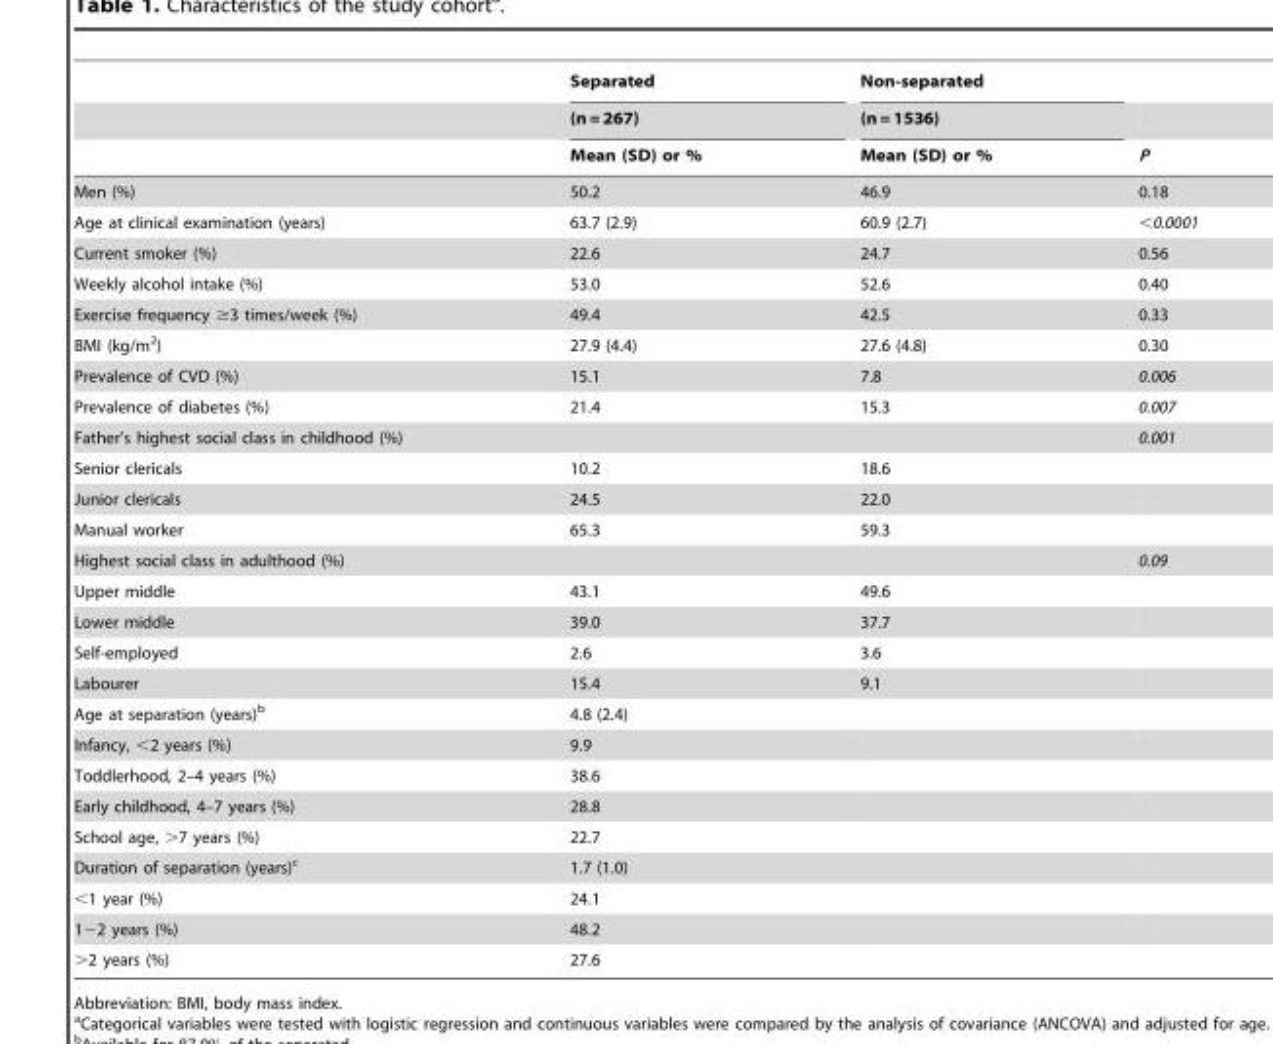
<table><thead><tr><td rowspan="3"></td><td rowspan="3">Separated (n = 267) Mean (SD) or %</td><td rowspan="3">Non-separated (n = 1536) Mean (SD) or %</td><td rowspan="3">P</td></tr><tr></tr><tr></tr></thead><tbody><tr><td>Men (%)</td><td>50.2</td><td>46.9</td><td>0.18</td></tr><tr><td>Age at clinical examination (years)</td><td>63.7 (2.9)</td><td>60.9 (2.7)</td><td>&lt;0.0001</td></tr><tr><td>Current smoker (%)</td><td>22.6</td><td>24.7</td><td>0.56</td></tr><tr><td>Weekly alcohol intake (%)</td><td>53.0</td><td>52.6</td><td>0.40</td></tr><tr><td>Exercise frequency ≥3 times/week (%)</td><td>49.4</td><td>42.5</td><td>0.33</td></tr><tr><td>BMI (kg/m<sup>2</sup>)</td><td>27.9 (4.4)</td><td>27.6 (4.8)</td><td>0.30</td></tr><tr><td>Prevalence of CVD (%)</td><td>15.1</td><td>7.8</td><td>0.006</td></tr><tr><td>Prevalence of diabetes (%)</td><td>21.4</td><td>15.3</td><td>0.007</td></tr><tr><td>Father’s highest social class in childhood (%)</td><td></td><td></td><td>0.001</td></tr><tr><td>Senior clericals</td><td>10.2</td><td>18.6</td><td></td></tr><tr><td>Junior clericals</td><td>24.5</td><td>22.0</td><td></td></tr><tr><td>Manual worker</td><td>65.3</td><td>59.3</td><td></td></tr><tr><td>Highest social class in adulthood (%)</td><td></td><td></td><td>0.09</td></tr><tr><td>Upper middle</td><td>43.1</td><td>49.6</td><td></td></tr><tr><td>Lower middle</td><td>39.0</td><td>37.7</td><td></td></tr><tr><td>Self-employed</td><td>2.6</td><td>3.6</td><td></td></tr><tr><td>Labourer</td><td>15.4</td><td>9.1</td><td></td></tr><tr><td>Age at separation (years)<sup>b</sup></td><td>4.8 (2.4)</td><td></td><td></td></tr><tr><td>Infancy, &lt;2 years (%)</td><td>9.9</td><td></td><td></td></tr><tr><td>Toddlerhood, 2–4 years (%)</td><td>38.6</td><td></td><td></td></tr><tr><td>Early childhood, 4–7 years (%)</td><td>28.8</td><td></td><td></td></tr><tr><td>School age, &gt;7 years (%)</td><td>22.7</td><td></td><td></td></tr><tr><td>Duration of separation (years)<sup>c</sup></td><td>1.7 (1.0)</td><td></td><td></td></tr><tr><td>&lt;1 year (%)</td><td>24.1</td><td></td><td></td></tr><tr><td>1−2 years (%)</td><td>48.2</td><td></td><td></td></tr><tr><td>&gt;2 years (%)</td><td>27.6</td><td></td><td></td></tr></tbody></table>